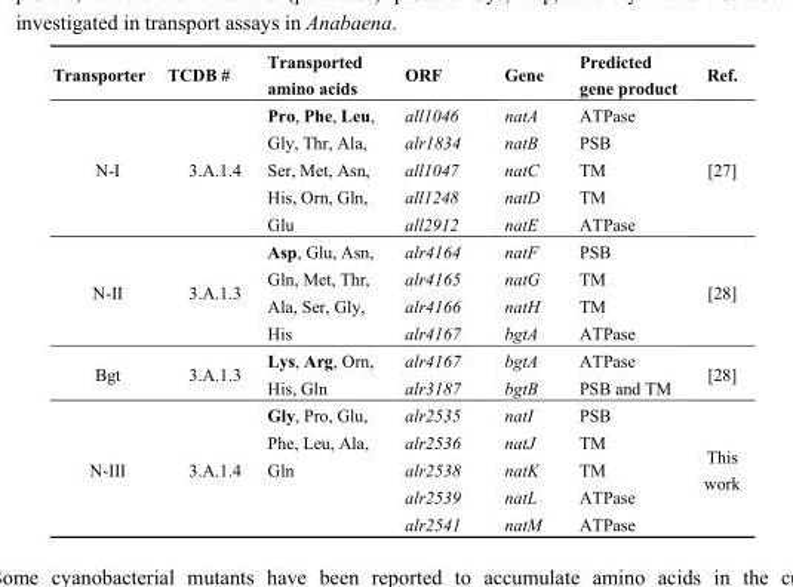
<table><thead><tr><td>Transporter</td><td>TCDB #</td><td>Transported amino acids</td><td>ORF</td><td>Gene</td><td>Predicted gene product</td><td>Ref.</td></tr></thead><tbody><tr><td rowspan="5">N-I</td><td rowspan="5">3.A.1.4</td><td>Pro, Phe, Leu,</td><td>all1046</td><td>natA</td><td>ATPase</td><td rowspan="5">[27]</td></tr><tr><td>Gly, Thr, Ala,</td><td>alr1834</td><td>natB</td><td>PSB</td></tr><tr><td>Ser, Met, Asn,</td><td>all1047</td><td>natC</td><td>TM</td></tr><tr><td>His, Orn, Gln,</td><td>all1248</td><td>natD</td><td>TM</td></tr><tr><td>Glu</td><td>all2912</td><td>natE</td><td>ATPase</td></tr><tr><td rowspan="4">N-II</td><td rowspan="4">3.A.1.3</td><td>Asp, Glu, Asn,</td><td>alr4164</td><td>natF</td><td>PSB</td><td rowspan="4">[28]</td></tr><tr><td>Gln, Met, Thr,</td><td>alr4165</td><td>natG</td><td>TM</td></tr><tr><td>Ala, Ser, Gly,</td><td>alr4166</td><td>natH</td><td>TM</td></tr><tr><td>His</td><td>alr4167</td><td>bgtA</td><td>ATPase</td></tr><tr><td rowspan="2">Bgt</td><td rowspan="2">3.A.1.3</td><td>Lys, Arg, Orn,</td><td>alr4167</td><td>bgtA</td><td>ATPase</td><td rowspan="2">[28]</td></tr><tr><td>His, Gln</td><td>alr3187</td><td>bgtB</td><td>PSB and TM</td></tr><tr><td rowspan="5">N-III</td><td rowspan="5">3.A.1.4</td><td>Gly, Pro, Glu,</td><td>alr2535</td><td>natI</td><td>PSB</td><td rowspan="5">This work</td></tr><tr><td>Phe, Leu, Ala,</td><td>alr2536</td><td>natJ</td><td>TM</td></tr><tr><td>Gln</td><td>alr2538</td><td>natK</td><td>TM</td></tr><tr><td></td><td>alr2539</td><td>natL</td><td>ATPase</td></tr><tr><td></td><td>alr2541</td><td>natM</td><td>ATPase</td></tr></tbody></table>